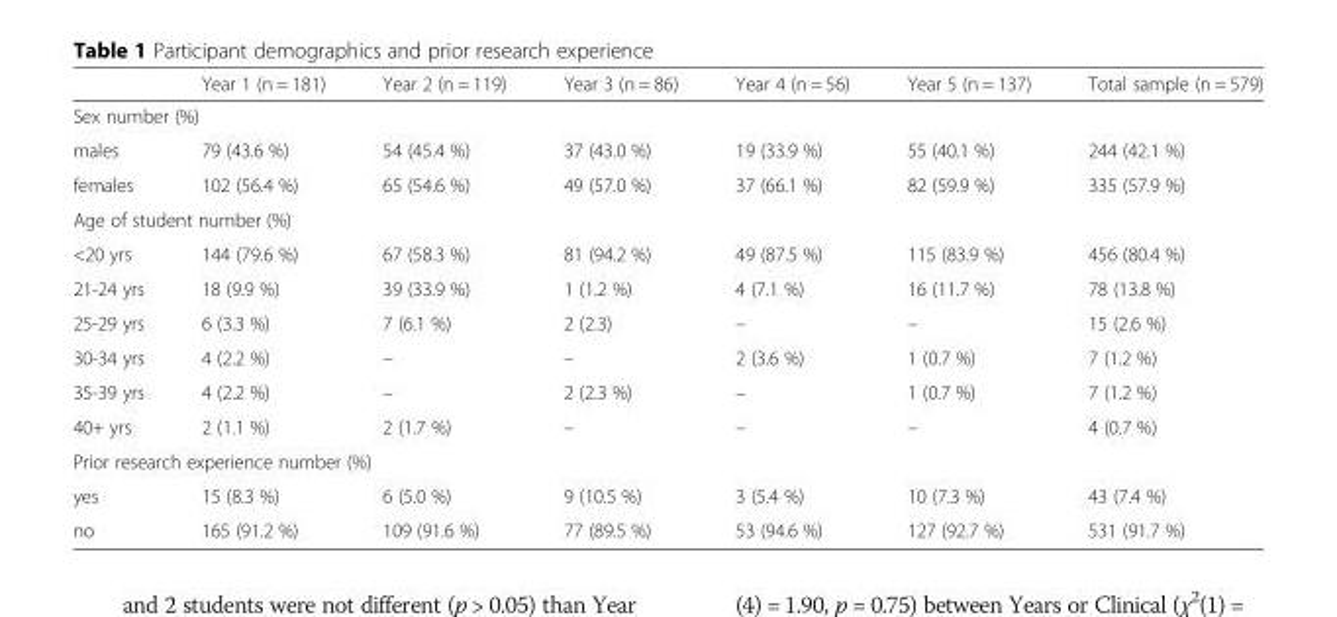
<table><thead><tr><td></td><td>Year 1 (n = 181)</td><td>Year 2 (n = 119)</td><td>Year 3 (n = 86)</td><td>Year 4 (n = 56)</td><td>Year 5 (n = 137)</td><td>Total sample (n = 579)</td></tr></thead><tbody><tr><td colspan="7">Sex number (%)</td></tr><tr><td>males</td><td>79 (43.6 %)</td><td>54 (45.4 %)</td><td>37 (43.0 %)</td><td>19 (33.9 %)</td><td>55 (40.1 %)</td><td>244 (42.1 %)</td></tr><tr><td>females</td><td>102 (56.4 %)</td><td>65 (54.6 %)</td><td>49 (57.0 %)</td><td>37 (66.1 %)</td><td>82 (59.9 %)</td><td>335 (57.9 %)</td></tr><tr><td colspan="7">Age of student number (%)</td></tr><tr><td>&lt;20 yrs</td><td>144 (79.6 %)</td><td>67 (58.3 %)</td><td>81 (94.2 %)</td><td>49 (87.5 %)</td><td>115 (83.9 %)</td><td>456 (80.4 %)</td></tr><tr><td>21-24 yrs</td><td>18 (9.9 %)</td><td>39 (33.9 %)</td><td>1 (1.2 %)</td><td>4 (7.1 %)</td><td>16 (11.7 %)</td><td>78 (13.8 %)</td></tr><tr><td>25-29 yrs</td><td>6 (3.3 %)</td><td>7 (6.1 %)</td><td>2 (2.3)</td><td>–</td><td>–</td><td>15 (2.6 %)</td></tr><tr><td>30-34 yrs</td><td>4 (2.2 %)</td><td>–</td><td>–</td><td>2 (3.6 %)</td><td>1 (0.7 %)</td><td>7 (1.2 %)</td></tr><tr><td>35-39 yrs</td><td>4 (2.2 %)</td><td>–</td><td>2 (2.3 %)</td><td>–</td><td>1 (0.7 %)</td><td>7 (1.2 %)</td></tr><tr><td>40+ yrs</td><td>2 (1.1 %)</td><td>2 (1.7 %)</td><td>–</td><td>–</td><td>–</td><td>4 (0.7 %)</td></tr><tr><td colspan="7">Prior research experience number (%)</td></tr><tr><td>yes</td><td>15 (8.3 %)</td><td>6 (5.0 %)</td><td>9 (10.5 %)</td><td>3 (5.4 %)</td><td>10 (7.3 %)</td><td>43 (7.4 %)</td></tr><tr><td>no</td><td>165 (91.2 %)</td><td>109 (91.6 %)</td><td>77 (89.5 %)</td><td>53 (94.6 %)</td><td>127 (92.7 %)</td><td>531 (91.7 %)</td></tr></tbody></table>